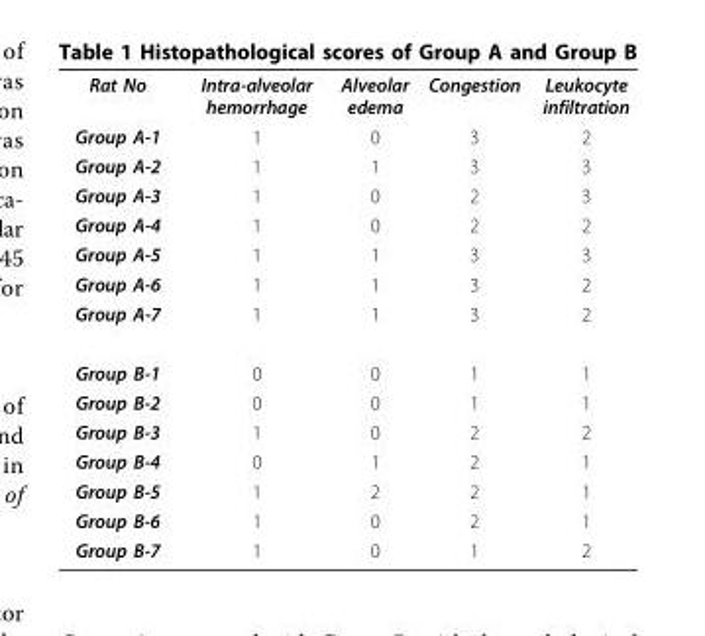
<table><tbody><tr><td>Rat No</td><td>Intra-alveolar hemorrhage</td><td>Alveolar edema</td><td>Congestion</td><td>Leukocyte infiltration</td></tr><tr><td>Group A-1</td><td>1</td><td>0</td><td>3</td><td>2</td></tr><tr><td>Group A-2</td><td>1</td><td>1</td><td>3</td><td>3</td></tr><tr><td>Group A-3</td><td>1</td><td>0</td><td>2</td><td>3</td></tr><tr><td>Group A-4</td><td>1</td><td>0</td><td>2</td><td>2</td></tr><tr><td>Group A-5</td><td>1</td><td>1</td><td>3</td><td>3</td></tr><tr><td>Group A-6</td><td>1</td><td>1</td><td>3</td><td>2</td></tr><tr><td>Group A-7</td><td>1</td><td>1</td><td>3</td><td>2</td></tr><tr><td>Group B-1</td><td>0</td><td>0</td><td>1</td><td>1</td></tr><tr><td>Group B-2</td><td>0</td><td>0</td><td>1</td><td>1</td></tr><tr><td>Group B-3</td><td>1</td><td>0</td><td>2</td><td>2</td></tr><tr><td>Group B-4</td><td>0</td><td>1</td><td>2</td><td>1</td></tr><tr><td>Group B-5</td><td>1</td><td>2</td><td>2</td><td>1</td></tr><tr><td>Group B-6</td><td>1</td><td>0</td><td>2</td><td>1</td></tr><tr><td>Group B-7</td><td>1</td><td>0</td><td>1</td><td>2</td></tr></tbody></table>